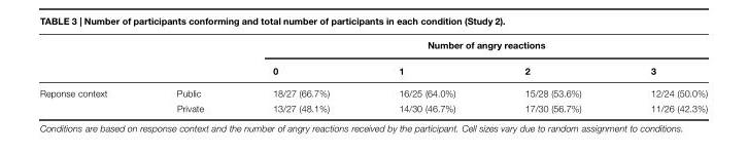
<table><thead><tr><td rowspan="2"></td><td rowspan="2"></td><td colspan="4">Number of angry reactions</td></tr><tr><td>0</td><td>1</td><td>2</td><td>3</td></tr></thead><tbody><tr><td rowspan="2">Reponse context</td><td>Public</td><td>18/27 (66.7%)</td><td>16/25 (64.0%)</td><td>15/28 (53.6%)</td><td>12/24 (50.0%)</td></tr><tr><td>Private</td><td>13/27 (48.1%)</td><td>14/30 (46.7%)</td><td>17/30 (56.7%)</td><td>11/26 (42.3%)</td></tr></tbody></table>